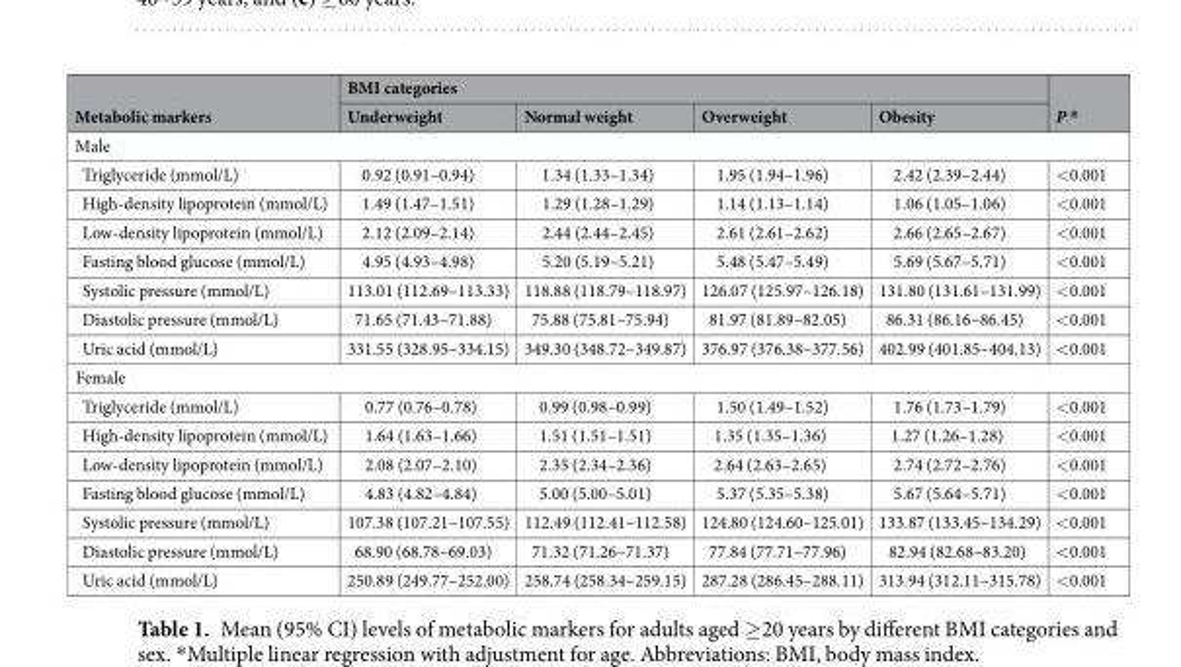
<table><thead><tr><td rowspan="2">Metabolic markers</td><td colspan="4">BMI categories</td><td rowspan="2">P *</td></tr><tr><td>Underweight</td><td>Normal weight</td><td>Overweight</td><td>Obesity</td></tr></thead><tbody><tr><td colspan="6">Male</td></tr><tr><td>Triglyceride (mmol/L)</td><td>0.92 (0.91–0.94)</td><td>1.34 (1.33–1.34)</td><td>1.95 (1.94–1.96)</td><td>2.42 (2.39–2.44)</td><td>&lt;0.001</td></tr><tr><td>High-density lipoprotein (mmol/L)</td><td>1.49 (1.47–1.51)</td><td>1.29 (1.28–1.29)</td><td>1.14 (1.13–1.14)</td><td>1.06 (1.05–1.06)</td><td>&lt;0.001</td></tr><tr><td>Low-density lipoprotein (mmol/L)</td><td>2.12 (2.09–2.14)</td><td>2.44 (2.44–2.45)</td><td>2.61 (2.61–2.62)</td><td>2.66 (2.65–2.67)</td><td>&lt;0.001</td></tr><tr><td>Fasting blood glucose (mmol/L)</td><td>4.95 (4.93–4.98)</td><td>5.20 (5.19–5.21)</td><td>5.48 (5.47–5.49)</td><td>5.69 (5.67–5.71)</td><td>&lt;0.001</td></tr><tr><td>Systolic pressure (mmol/L)</td><td>113.01 (112.69–113.33)</td><td>118.88 (118.79–118.97)</td><td>126.07 (125.97–126.18)</td><td>131.80 (131.61–131.99)</td><td>&lt;0.001</td></tr><tr><td>Diastolic pressure (mmol/L)</td><td>71.65 (71.43–71.88)</td><td>75.88 (75.81–75.94)</td><td>81.97 (81.89–82.05)</td><td>86.31 (86.16–86.45)</td><td>&lt;0.001</td></tr><tr><td>Uric acid (mmol/L)</td><td>331.55 (328.95–334.15)</td><td>349.30 (348.72–349.87)</td><td>376.97 (376.38–377.56)</td><td>402.99 (401.85–404.13)</td><td>&lt;0.001</td></tr><tr><td colspan="6">Female</td></tr><tr><td>Triglyceride (mmol/L)</td><td>0.77 (0.76–0.78)</td><td>0.99 (0.98–0.99)</td><td>1.50 (1.49–1.52)</td><td>1.76 (1.73–1.79)</td><td>&lt;0.001</td></tr><tr><td>High-density lipoprotein (mmol/L)</td><td>1.64 (1.63–1.66)</td><td>1.51 (1.51–1.51)</td><td>1.35 (1.35–1.36)</td><td>1.27 (1.26–1.28)</td><td>&lt;0.001</td></tr><tr><td>Low-density lipoprotein (mmol/L)</td><td>2.08 (2.07–2.10)</td><td>2.35 (2.34–2.36)</td><td>2.64 (2.63–2.65)</td><td>2.74 (2.72–2.76)</td><td>&lt;0.001</td></tr><tr><td>Fasting blood glucose (mmol/L)</td><td>4.83 (4.82–4.84)</td><td>5.00 (5.00–5.01)</td><td>5.37 (5.35–5.38)</td><td>5.67 (5.64–5.71)</td><td>&lt;0.001</td></tr><tr><td>Systolic pressure (mmol/L)</td><td>107.38 (107.21–107.55)</td><td>112.49 (112.41–112.58)</td><td>124.80 (124.60–125.01)</td><td>133.87 (133.45–134.29)</td><td>&lt;0.001</td></tr><tr><td>Diastolic pressure (mmol/L)</td><td>68.90 (68.78–69.03)</td><td>71.32 (71.26–71.37)</td><td>77.84 (77.71–77.96)</td><td>82.94 (82.68–83.20)</td><td>&lt;0.001</td></tr><tr><td>Uric acid (mmol/L)</td><td>250.89 (249.77–252.00)</td><td>258.74 (258.34–259.15)</td><td>287.28 (286.45–288.11)</td><td>313.94 (312.11–315.78)</td><td>&lt;0.001</td></tr></tbody></table>